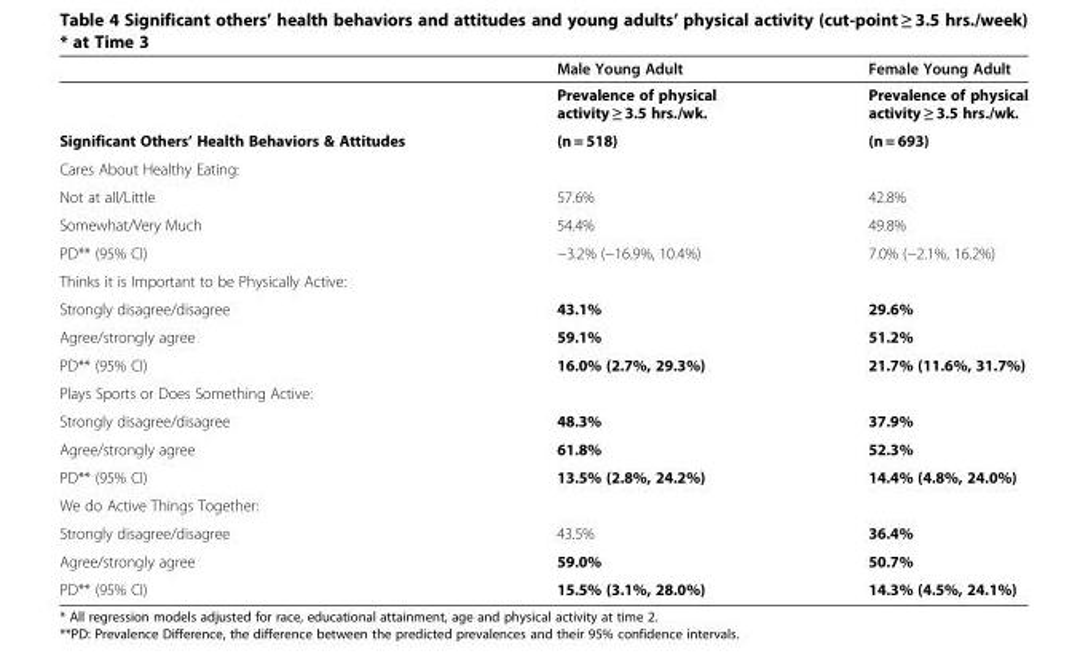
<table><thead><tr><td></td><td>Male Young Adult</td><td>Female Young Adult</td></tr></thead><tbody><tr><td></td><td>Prevalence of physical activity ≥ 3.5 hrs./wk.</td><td>Prevalence of physical activity ≥ 3.5 hrs./wk.</td></tr><tr><td>Significant Others’ Health Behaviors &amp; Attitudes</td><td>(n = 518)</td><td>(n = 693)</td></tr><tr><td colspan="3">Cares About Healthy Eating:</td></tr><tr><td>Not at all/Little</td><td>57.6%</td><td>42.8%</td></tr><tr><td>Somewhat/Very Much</td><td>54.4%</td><td>49.8%</td></tr><tr><td>PD** (95% CI)</td><td>−3.2% (−16.9%, 10.4%)</td><td>7.0% (−2.1%, 16.2%)</td></tr><tr><td colspan="3">Thinks it is Important to be Physically Active:</td></tr><tr><td>Strongly disagree/disagree</td><td>43.1%</td><td>29.6%</td></tr><tr><td>Agree/strongly agree</td><td>59.1%</td><td>51.2%</td></tr><tr><td>PD** (95% CI)</td><td>16.0% (2.7%, 29.3%)</td><td>21.7% (11.6%, 31.7%)</td></tr><tr><td colspan="3">Plays Sports or Does Something Active:</td></tr><tr><td>Strongly disagree/disagree</td><td>48.3%</td><td>37.9%</td></tr><tr><td>Agree/strongly agree</td><td>61.8%</td><td>52.3%</td></tr><tr><td>PD** (95% CI)</td><td>13.5% (2.8%, 24.2%)</td><td>14.4% (4.8%, 24.0%)</td></tr><tr><td colspan="3">We do Active Things Together:</td></tr><tr><td>Strongly disagree/disagree</td><td>43.5%</td><td>36.4%</td></tr><tr><td>Agree/strongly agree</td><td>59.0%</td><td>50.7%</td></tr><tr><td>PD** (95% CI)</td><td>15.5% (3.1%, 28.0%)</td><td>14.3% (4.5%, 24.1%)</td></tr></tbody></table>